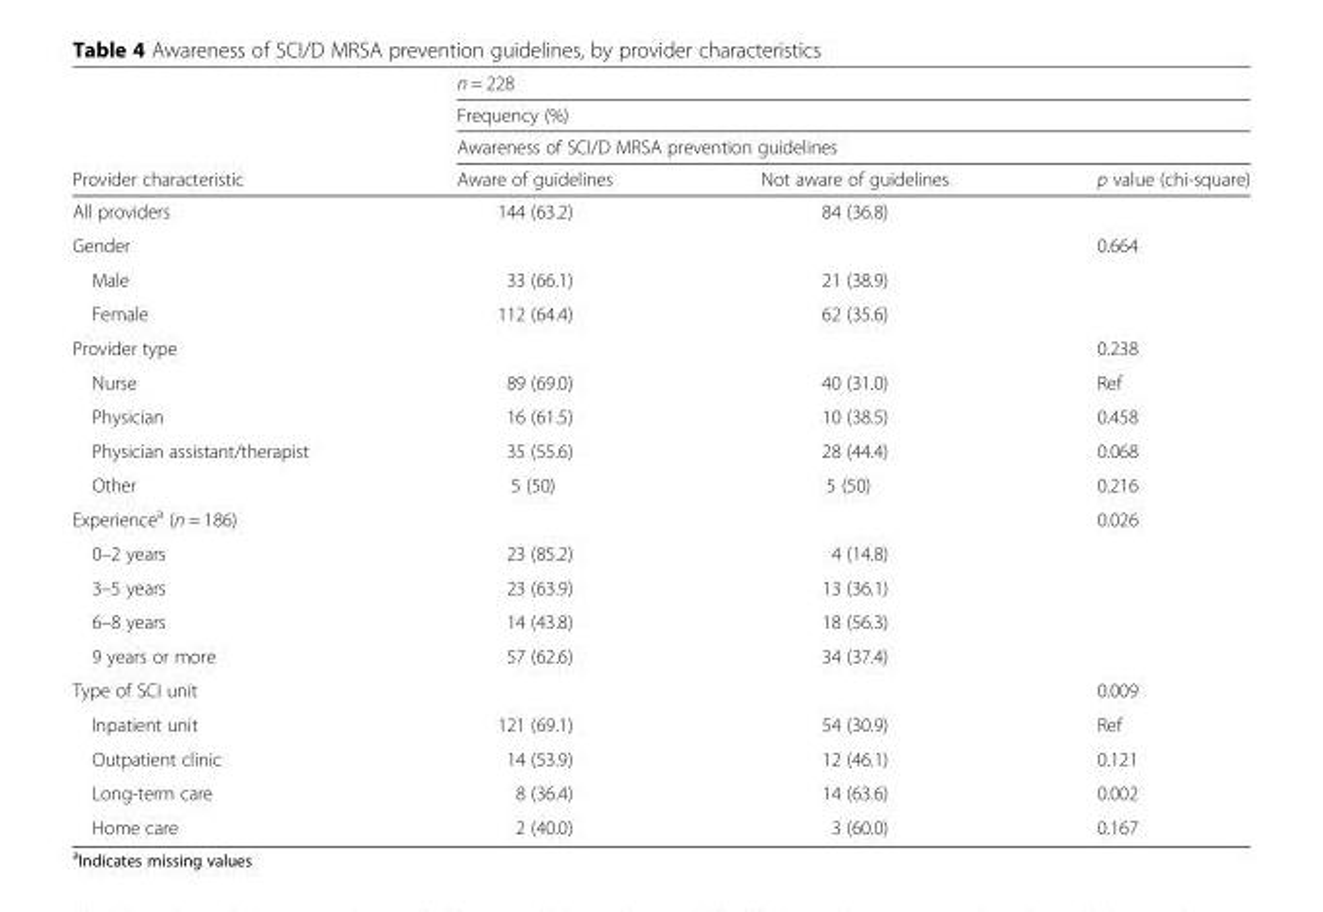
<table><thead><tr><td rowspan="4">Provider characteristic</td><td rowspan="3" colspan="3">n = 228 Frequency (%) Awareness of SCI/D MRSA prevention guidelines</td></tr><tr></tr><tr></tr><tr><td>Aware of guidelines</td><td>Not aware of guidelines</td><td>p value (chi-square)</td></tr></thead><tbody><tr><td>All providers</td><td>144 (63.2)</td><td>84 (36.8)</td><td></td></tr><tr><td>Gender</td><td></td><td></td><td>0.664</td></tr><tr><td>Male</td><td>33 (66.1)</td><td>21 (38.9)</td><td></td></tr><tr><td>Female</td><td>112 (64.4)</td><td>62 (35.6)</td><td></td></tr><tr><td>Provider type</td><td></td><td></td><td>0.238</td></tr><tr><td>Nurse</td><td>89 (69.0)</td><td>40 (31.0)</td><td>Ref</td></tr><tr><td>Physician</td><td>16 (61.5)</td><td>10 (38.5)</td><td>0.458</td></tr><tr><td>Physician assistant/therapist</td><td>35 (55.6)</td><td>28 (44.4)</td><td>0.068</td></tr><tr><td>Other</td><td>5 (50)</td><td>5 (50)</td><td>0.216</td></tr><tr><td>Experience<sup>a</sup> (n = 186)</td><td></td><td></td><td>0.026</td></tr><tr><td>0–2 years</td><td>23 (85.2)</td><td>4 (14.8)</td><td></td></tr><tr><td>3–5 years</td><td>23 (63.9)</td><td>13 (36.1)</td><td></td></tr><tr><td>6–8 years</td><td>14 (43.8)</td><td>18 (56.3)</td><td></td></tr><tr><td>9 years or more</td><td>57 (62.6)</td><td>34 (37.4)</td><td></td></tr><tr><td>Type of SCI unit</td><td></td><td></td><td>0.009</td></tr><tr><td>Inpatient unit</td><td>121 (69.1)</td><td>54 (30.9)</td><td>Ref</td></tr><tr><td>Outpatient clinic</td><td>14 (53.9)</td><td>12 (46.1)</td><td>0.121</td></tr><tr><td>Long-term care</td><td>8 (36.4)</td><td>14 (63.6)</td><td>0.002</td></tr><tr><td>Home care</td><td>2 (40.0)</td><td>3 (60.0)</td><td>0.167</td></tr></tbody></table>